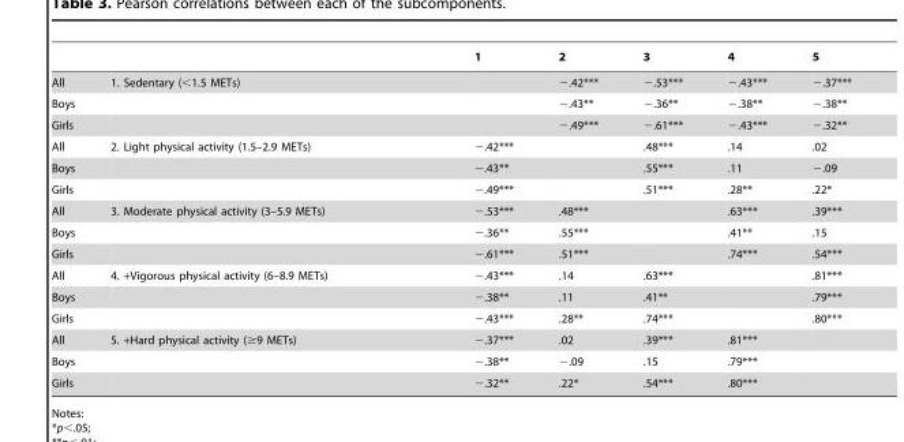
<table><thead><tr><td></td><td></td><td>1</td><td>2</td><td>3</td><td>4</td><td>5</td></tr></thead><tbody><tr><td>All</td><td>1. Sedentary (&lt;1.5 METs)</td><td></td><td>−.42***</td><td>−.53***</td><td>−.43***</td><td>−.37***</td></tr><tr><td>Boys</td><td></td><td></td><td>−.43**</td><td>−.36**</td><td>−.38**</td><td>−.38**</td></tr><tr><td>Girls</td><td></td><td></td><td>−.49***</td><td>−.61***</td><td>−.43***</td><td>−.32**</td></tr><tr><td>All</td><td>2. Light physical activity (1.5–2.9 METs)</td><td>−.42***</td><td></td><td>.48***</td><td>.14</td><td>.02</td></tr><tr><td>Boys</td><td></td><td>−.43**</td><td></td><td>.55***</td><td>.11</td><td>−.09</td></tr><tr><td>Girls</td><td></td><td>−.49***</td><td></td><td>.51***</td><td>.28**</td><td>.22*</td></tr><tr><td>All</td><td>3. Moderate physical activity (3–5.9 METs)</td><td>−.53***</td><td>.48***</td><td></td><td>.63***</td><td>.39***</td></tr><tr><td>Boys</td><td></td><td>−.36**</td><td>.55***</td><td></td><td>.41**</td><td>.15</td></tr><tr><td>Girls</td><td></td><td>−.61***</td><td>.51***</td><td></td><td>.74***</td><td>.54***</td></tr><tr><td>All</td><td>4. +Vigorous physical activity (6–8.9 METs)</td><td>−.43***</td><td>.14</td><td>.63***</td><td></td><td>.81***</td></tr><tr><td>Boys</td><td></td><td>−.38**</td><td>.11</td><td>.41**</td><td></td><td>.79***</td></tr><tr><td>Girls</td><td></td><td>−.43***</td><td>.28**</td><td>.74***</td><td></td><td>.80***</td></tr><tr><td>All</td><td>5. +Hard physical activity (≥9 METs)</td><td>−.37***</td><td>.02</td><td>.39***</td><td>.81***</td><td></td></tr><tr><td>Boys</td><td></td><td>−.38**</td><td>−.09</td><td>.15</td><td>.79***</td><td></td></tr><tr><td>Girls</td><td></td><td>−.32**</td><td>.22*</td><td>.54***</td><td>.80***</td><td></td></tr></tbody></table>